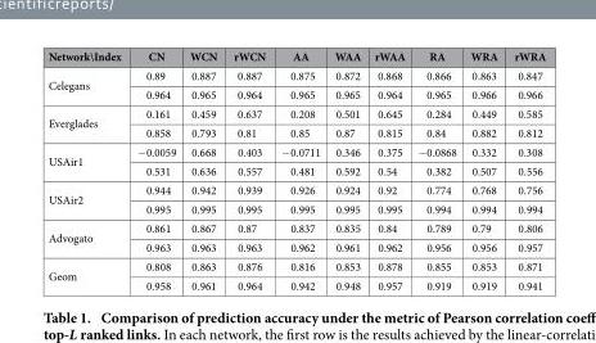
<table><thead><tr><td>Network\Index</td><td>CN</td><td>WCN</td><td>rWCN</td><td>AA</td><td>WAA</td><td>rWAA</td><td>RA</td><td>WRA</td><td>rWRA</td></tr></thead><tbody><tr><td rowspan="2">Celegans</td><td>0.89</td><td>0.887</td><td>0.887</td><td>0.875</td><td>0.872</td><td>0.868</td><td>0.866</td><td>0.863</td><td>0.847</td></tr><tr><td>0.964</td><td>0.965</td><td>0.964</td><td>0.965</td><td>0.965</td><td>0.964</td><td>0.965</td><td>0.966</td><td>0.966</td></tr><tr><td rowspan="2">Everglades</td><td>0.161</td><td>0.459</td><td>0.637</td><td>0.208</td><td>0.501</td><td>0.645</td><td>0.284</td><td>0.449</td><td>0.585</td></tr><tr><td>0.858</td><td>0.793</td><td>0.81</td><td>0.85</td><td>0.87</td><td>0.815</td><td>0.84</td><td>0.882</td><td>0.812</td></tr><tr><td rowspan="2">USAir1</td><td>− 0.0059</td><td>0.668</td><td>0.403</td><td>− 0.0711</td><td>0.346</td><td>0.375</td><td>− 0.0868</td><td>0.332</td><td>0.308</td></tr><tr><td>0.531</td><td>0.636</td><td>0.557</td><td>0.481</td><td>0.592</td><td>0.54</td><td>0.382</td><td>0.507</td><td>0.556</td></tr><tr><td rowspan="2">USAir2</td><td>0.944</td><td>0.942</td><td>0.939</td><td>0.926</td><td>0.924</td><td>0.92</td><td>0.774</td><td>0.768</td><td>0.756</td></tr><tr><td>0.995</td><td>0.995</td><td>0.995</td><td>0.995</td><td>0.995</td><td>0.995</td><td>0.994</td><td>0.994</td><td>0.994</td></tr><tr><td rowspan="2">Advogato</td><td>0.861</td><td>0.867</td><td>0.87</td><td>0.837</td><td>0.835</td><td>0.84</td><td>0.789</td><td>0.79</td><td>0.806</td></tr><tr><td>0.963</td><td>0.963</td><td>0.963</td><td>0.962</td><td>0.961</td><td>0.962</td><td>0.956</td><td>0.956</td><td>0.957</td></tr><tr><td rowspan="2">Geom</td><td>0.808</td><td>0.863</td><td>0.876</td><td>0.816</td><td>0.853</td><td>0.878</td><td>0.855</td><td>0.853</td><td>0.871</td></tr><tr><td>0.958</td><td>0.961</td><td>0.964</td><td>0.942</td><td>0.948</td><td>0.957</td><td>0.919</td><td>0.919</td><td>0.941</td></tr></tbody></table>